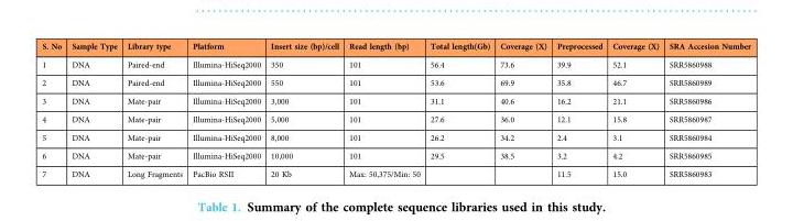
<table><thead><tr><td>S. No</td><td>Sample Type</td><td>Library type</td><td>Platform</td><td>Insert size (bp)/cell</td><td>Read length (bp)</td><td>Total length(Gb)</td><td>Coverage (X)</td><td>Preprocessed</td><td>Coverage (X)</td><td>SRA Accesion Number</td></tr></thead><tbody><tr><td>1</td><td>DNA</td><td>Paired-end</td><td>Illumina-HiSeq2000</td><td>350</td><td>101</td><td>56.4</td><td>73.6</td><td>39.9</td><td>52.1</td><td>SRR5860988</td></tr><tr><td>2</td><td>DNA</td><td>Paired-end</td><td>Illumina-HiSeq2000</td><td>550</td><td>101</td><td>53.6</td><td>69.9</td><td>35.8</td><td>46.7</td><td>SRR5860989</td></tr><tr><td>3</td><td>DNA</td><td>Mate-pair</td><td>Illumina-HiSeq2000</td><td>3,000</td><td>101</td><td>31.1</td><td>40.6</td><td>16.2</td><td>21.1</td><td>SRR5860986</td></tr><tr><td>4</td><td>DNA</td><td>Mate-pair</td><td>Illumina-HiSeq2000</td><td>5,000</td><td>101</td><td>27.6</td><td>36.0</td><td>12.1</td><td>15.8</td><td>SRR5860987</td></tr><tr><td>5</td><td>DNA</td><td>Mate-pair</td><td>Illumina-HiSeq2000</td><td>8,000</td><td>101</td><td>26.2</td><td>34.2</td><td>2.4</td><td>3.1</td><td>SRR5860984</td></tr><tr><td>6</td><td>DNA</td><td>Mate-pair</td><td>Illumina-HiSeq2000</td><td>10,000</td><td>101</td><td>29.5</td><td>38.5</td><td>3.2</td><td>4.2</td><td>SRR5860985</td></tr><tr><td>7</td><td>DNA</td><td>Long Fragments</td><td>PacBio RSII</td><td>20 Kb</td><td>Max: 50,375/Min: 50</td><td></td><td></td><td>11.5</td><td>15.0</td><td>SRR5860983</td></tr></tbody></table>